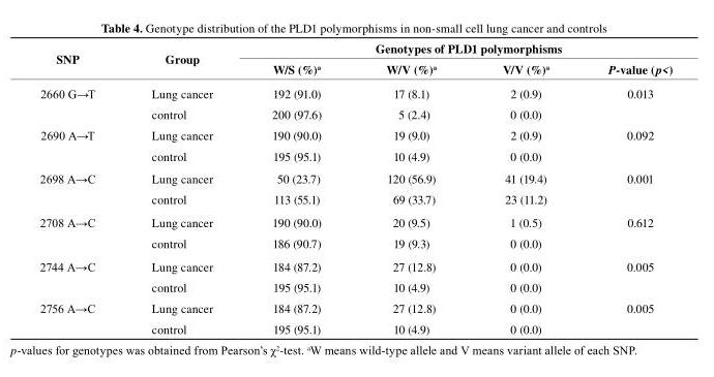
<table><thead><tr><td rowspan="2">sNP</td><td rowspan="2">Group</td><td colspan="4">Genotypes of PLD1 polymorphisms</td></tr><tr><td>W/s (%)<sup>a</sup></td><td>W/V (%)<sup>a</sup></td><td>V/V (%)<sup>a</sup></td><td>P-value (p&lt;)</td></tr></thead><tbody><tr><td rowspan="2">2660 G→T</td><td>Lung cancer</td><td>192 (91.0)</td><td>17 (8.1)</td><td>2 (0.9)</td><td>0.013</td></tr><tr><td>control</td><td>200 (97.6)</td><td>5 (2.4)</td><td>0 (0.0)</td><td></td></tr><tr><td rowspan="2">2690 A→T</td><td>Lung cancer</td><td>190 (90.0)</td><td>19 (9.0)</td><td>2 (0.9)</td><td>0.092</td></tr><tr><td>control</td><td>195 (95.1)</td><td>10 (4.9)</td><td>0 (0.0)</td><td></td></tr><tr><td rowspan="2">2698 A→C</td><td>Lung cancer</td><td>50 (23.7)</td><td>120 (56.9)</td><td>41 (19.4)</td><td>0.001</td></tr><tr><td>control</td><td>113 (55.1)</td><td>69 (33.7)</td><td>23 (11.2)</td><td></td></tr><tr><td rowspan="2">2708 A→C</td><td>Lung cancer</td><td>190 (90.0)</td><td>20 (9.5)</td><td>1 (0.5)</td><td>0.612</td></tr><tr><td>control</td><td>186 (90.7)</td><td>19 (9.3)</td><td>0 (0.0)</td><td></td></tr><tr><td rowspan="2">2744 A→C</td><td>Lung cancer</td><td>184 (87.2)</td><td>27 (12.8)</td><td>0 (0.0)</td><td>0.005</td></tr><tr><td>control</td><td>195 (95.1)</td><td>10 (4.9)</td><td>0 (0.0)</td><td></td></tr><tr><td rowspan="2">2756 A→C</td><td>Lung cancer</td><td>184 (87.2)</td><td>27 (12.8)</td><td>0 (0.0)</td><td>0.005</td></tr><tr><td>control</td><td>195 (95.1)</td><td>10 (4.9)</td><td>0 (0.0)</td><td></td></tr></tbody></table>